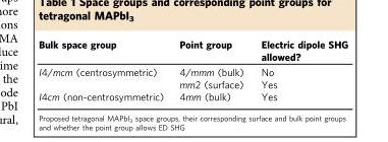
<table><thead><tr><td>Bulk space group</td><td>Point group</td><td>Electric dipole SHG allowed?</td></tr></thead><tbody><tr><td rowspan="2">I4/mcm (centrosymmetric)</td><td>4/mmm (bulk)</td><td>No</td></tr><tr><td>mm2 (surface)</td><td>Yes</td></tr><tr><td>I4cm (non-centrosymmetric)</td><td>4mm (bulk)</td><td>Yes</td></tr></tbody></table>